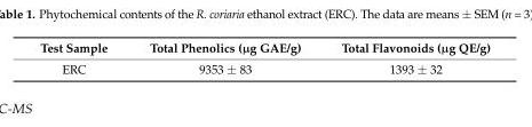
<table><thead><tr><td>Test Sample</td><td>Total Phenolics (µg GAE/g)</td><td>Total Flavonoids (µg QE/g)</td></tr></thead><tbody><tr><td>ERC</td><td>9353 ± 83</td><td>1393 ± 32</td></tr></tbody></table>